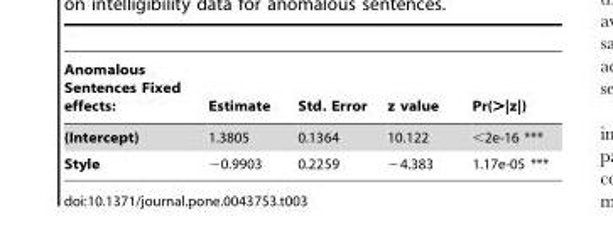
<table><thead><tr><td>Anomalous Sentences Fixed effects:</td><td>Estimate</td><td>Std. Error</td><td>z value</td><td>Pr(&gt;|z|)</td></tr></thead><tbody><tr><td>(Intercept)</td><td>1.3805</td><td>0.1364</td><td>10.122</td><td>&lt;2e-16 ***</td></tr><tr><td>Style</td><td>−0.9903</td><td>0.2259</td><td>−4.383</td><td>1.17e-05 ***</td></tr></tbody></table>